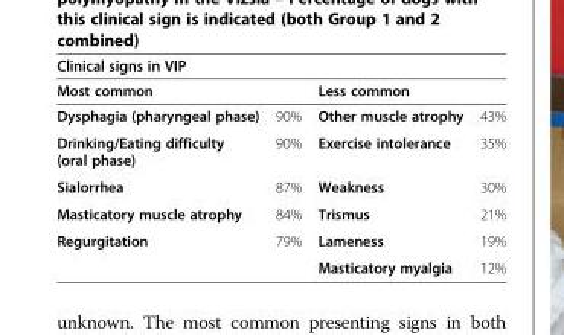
<table><thead><tr><td colspan="4">Clinical signs in VIP</td></tr><tr><td colspan="2">Most common</td><td colspan="2">Less common</td></tr><tr><td>Dysphagia (pharyngeal phase)</td><td>90%</td><td>Other muscle atrophy</td><td>43%</td></tr></thead><tbody><tr><td>Drinking/Eating difficulty (oral phase)</td><td>90%</td><td>Exercise intolerance</td><td>35%</td></tr><tr><td>Sialorrhea</td><td>87%</td><td>Weakness</td><td>30%</td></tr><tr><td>Masticatory muscle atrophy</td><td>84%</td><td>Trismus</td><td>21%</td></tr><tr><td rowspan="2">Regurgitation</td><td>79%</td><td>Lameness</td><td>19%</td></tr><tr><td></td><td>Masticatory myalgia</td><td>12%</td></tr></tbody></table>